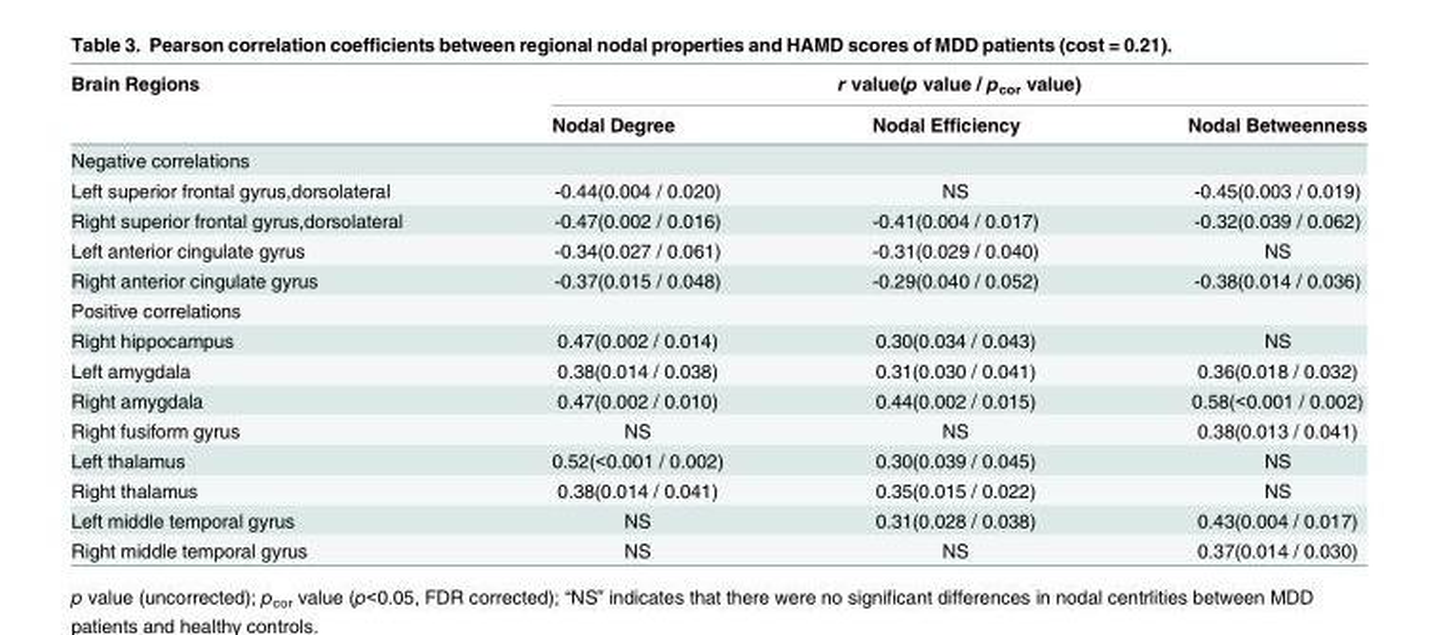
<table><thead><tr><td rowspan="2">Brain Regions</td><td colspan="3">r value(p value / p<sub>cor</sub> value)</td></tr><tr><td>Nodal Degree</td><td>Nodal Efficiency</td><td>Nodal Betweenness</td></tr></thead><tbody><tr><td colspan="4">Negative correlations</td></tr><tr><td>Left superior frontal gyrus,dorsolateral</td><td>-0.44(0.004 / 0.020)</td><td>NS</td><td>-0.45(0.003 / 0.019)</td></tr><tr><td>Right superior frontal gyrus,dorsolateral</td><td>-0.47(0.002 / 0.016)</td><td>-0.41(0.004 / 0.017)</td><td>-0.32(0.039 / 0.062)</td></tr><tr><td>Left anterior cingulate gyrus</td><td>-0.34(0.027 / 0.061)</td><td>-0.31(0.029 / 0.040)</td><td>NS</td></tr><tr><td>Right anterior cingulate gyrus</td><td>-0.37(0.015 / 0.048)</td><td>-0.29(0.040 / 0.052)</td><td>-0.38(0.014 / 0.036)</td></tr><tr><td colspan="4">Positive correlations</td></tr><tr><td>Right hippocampus</td><td>0.47(0.002 / 0.014)</td><td>0.30(0.034 / 0.043)</td><td>NS</td></tr><tr><td>Left amygdala</td><td>0.38(0.014 / 0.038)</td><td>0.31(0.030 / 0.041)</td><td>0.36(0.018 / 0.032)</td></tr><tr><td>Right amygdala</td><td>0.47(0.002 / 0.010)</td><td>0.44(0.002 / 0.015)</td><td>0.58(&lt;0.001 / 0.002)</td></tr><tr><td>Right fusiform gyrus</td><td>NS</td><td>NS</td><td>0.38(0.013 / 0.041)</td></tr><tr><td>Left thalamus</td><td>0.52(&lt;0.001 / 0.002)</td><td>0.30(0.039 / 0.045)</td><td>NS</td></tr><tr><td>Right thalamus</td><td>0.38(0.014 / 0.041)</td><td>0.35(0.015 / 0.022)</td><td>NS</td></tr><tr><td>Left middle temporal gyrus</td><td>NS</td><td>0.31(0.028 / 0.038)</td><td>0.43(0.004 / 0.017)</td></tr><tr><td>Right middle temporal gyrus</td><td>NS</td><td>NS</td><td>0.37(0.014 / 0.030)</td></tr></tbody></table>